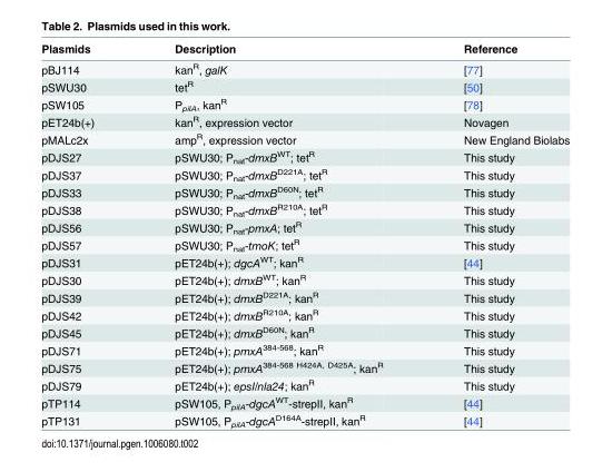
<table><thead><tr><td>Plasmids</td><td>Description</td><td>Reference</td></tr></thead><tbody><tr><td>pBJ114</td><td>kan<sup>R</sup>, galK</td><td>[77]</td></tr><tr><td>pSWU30</td><td>tet<sup>R</sup></td><td>[50]</td></tr><tr><td>pSW105</td><td>P<sub>pilA</sub>, kan<sup>R</sup></td><td>[78]</td></tr><tr><td>pET24b(+)</td><td>kan<sup>R</sup>, expression vector</td><td>Novagen</td></tr><tr><td>pMALc2x</td><td>amp<sup>R</sup>, expression vector</td><td>New England Biolabs</td></tr><tr><td>pDJS27</td><td>pSWU30; P<sub>nat</sub>-dmxB<sup>WT</sup>; tet<sup>R</sup></td><td>This study</td></tr><tr><td>pDJS37</td><td>pSWU30; P<sub>nat</sub>-dmxB<sup>D221A</sup>; tet<sup>R</sup></td><td>This study</td></tr><tr><td>pDJS33</td><td>pSWU30; P<sub>nat</sub>-dmxB<sup>D60N</sup>; tet<sup>R</sup></td><td>This study</td></tr><tr><td>pDJS38</td><td>pSWU30; P<sub>nat</sub>-dmxB<sup>R210A</sup>; tet<sup>R</sup></td><td>This study</td></tr><tr><td>pDJS56</td><td>pSWU30; P<sub>nat</sub>-pmxA; tet<sup>R</sup></td><td>This study</td></tr><tr><td>pDJS57</td><td>pSWU30; P<sub>nat</sub>-tmoK; tet<sup>R</sup></td><td>This study</td></tr><tr><td>pDJS31</td><td>pET24b(+); dgcA<sup>WT</sup>; kan<sup>R</sup></td><td>[44]</td></tr><tr><td>pDJS30</td><td>pET24b(+); dmxB<sup>WT</sup>; kan<sup>R</sup></td><td>This study</td></tr><tr><td>pDJS39</td><td>pET24b(+); dmxB<sup>D221A</sup>; kan<sup>R</sup></td><td>This study</td></tr><tr><td>pDJS42</td><td>pET24b(+); dmxB<sup>R210A</sup>; kan<sup>R</sup></td><td>This study</td></tr><tr><td>pDJS45</td><td>pET24b(+); dmxB<sup>D60N</sup>; kan<sup>R</sup></td><td>This study</td></tr><tr><td>pDJS71</td><td>pET24b(+); pmxA<sup>384-568</sup>; kan<sup>R</sup></td><td>This study</td></tr><tr><td>pDJS75</td><td>pET24b(+); pmxA<sup>384-568 H424A, D425A</sup>; kan<sup>R</sup></td><td>This study</td></tr><tr><td>pDJS79</td><td>pET24b(+); epsI/nla24; kan<sup>R</sup></td><td>This study</td></tr><tr><td>pTP114</td><td>pSW105, P<sub>pilA</sub>-dgcA<sup>WT</sup>-strepII, kan<sup>R</sup></td><td>[44]</td></tr><tr><td>pTP131</td><td>pSW105, P<sub>pilA</sub>-dgcA<sup>D164A</sup>-strepII, kan<sup>R</sup></td><td>[44]</td></tr></tbody></table>